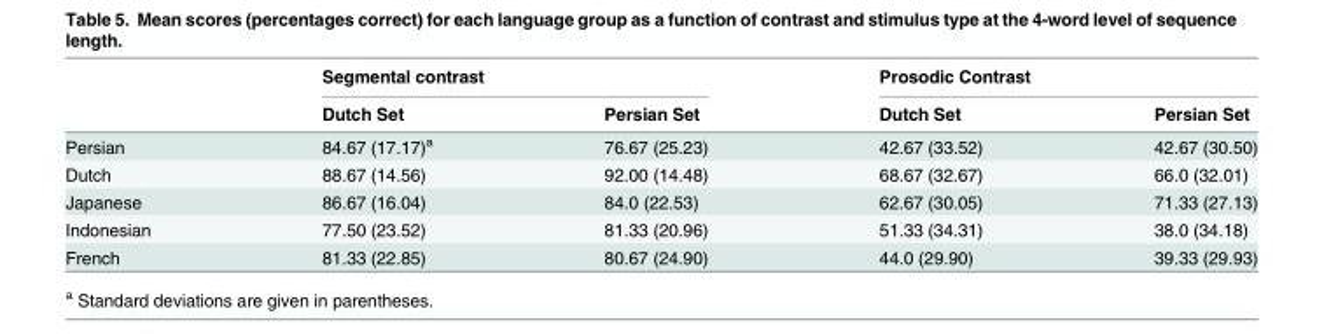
<table><thead><tr><td rowspan="2"></td><td colspan="2">Segmental contrast</td><td colspan="2">Prosodic Contrast</td></tr><tr><td>Dutch Set</td><td>Persian Set</td><td>Dutch Set</td><td>Persian Set</td></tr></thead><tbody><tr><td>Persian</td><td>84.67 (17.17)<sup>a</sup></td><td>76.67 (25.23)</td><td>42.67 (33.52)</td><td>42.67 (30.50)</td></tr><tr><td>Dutch</td><td>88.67 (14.56)</td><td>92.00 (14.48)</td><td>68.67 (32.67)</td><td>66.0 (32.01)</td></tr><tr><td>Japanese</td><td>86.67 (16.04)</td><td>84.0 (22.53)</td><td>62.67 (30.05)</td><td>71.33 (27.13)</td></tr><tr><td>Indonesian</td><td>77.50 (23.52)</td><td>81.33 (20.96)</td><td>51.33 (34.31)</td><td>38.0 (34.18)</td></tr><tr><td>French</td><td>81.33 (22.85)</td><td>80.67 (24.90)</td><td>44.0 (29.90)</td><td>39.33 (29.93)</td></tr></tbody></table>